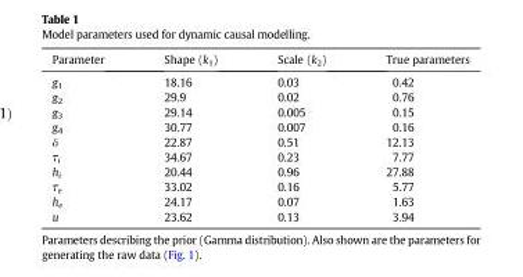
<table><thead><tr><td>Parameter</td><td>Shape (k<sub>1</sub>)</td><td>Scale (k<sub>2</sub>)</td><td>True parameters</td></tr></thead><tbody><tr><td>g<sub>1</sub></td><td>18.16</td><td>0.03</td><td>0.42</td></tr><tr><td>g<sub>2</sub></td><td>29.9</td><td>0.02</td><td>0.76</td></tr><tr><td>g<sub>3</sub></td><td>29.14</td><td>0.005</td><td>0.15</td></tr><tr><td>g<sub>4</sub></td><td>30.77</td><td>0.007</td><td>0.16</td></tr><tr><td>δ</td><td>22.87</td><td>0.51</td><td>12.13</td></tr><tr><td>τ<sub>i</sub></td><td>34.67</td><td>0.23</td><td>7.77</td></tr><tr><td>h<sub>i</sub></td><td>20.44</td><td>0.96</td><td>27.88</td></tr><tr><td>τ<sub>e</sub></td><td>33.02</td><td>0.16</td><td>5.77</td></tr><tr><td>h<sub>e</sub></td><td>24.17</td><td>0.07</td><td>1.63</td></tr><tr><td>u</td><td>23.62</td><td>0.13</td><td>3.94</td></tr></tbody></table>